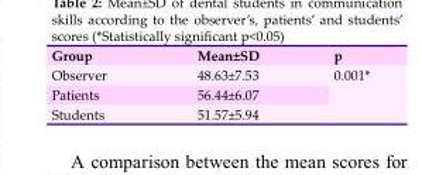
<table><thead><tr><td>Group</td><td>Mean±SD</td><td>p</td></tr></thead><tbody><tr><td>Observer</td><td>48.63±7.53</td><td rowspan="3">0.001*</td></tr><tr><td>Patients</td><td>56.44±6.07</td></tr><tr><td>Students</td><td>51.57±5.94</td></tr></tbody></table>